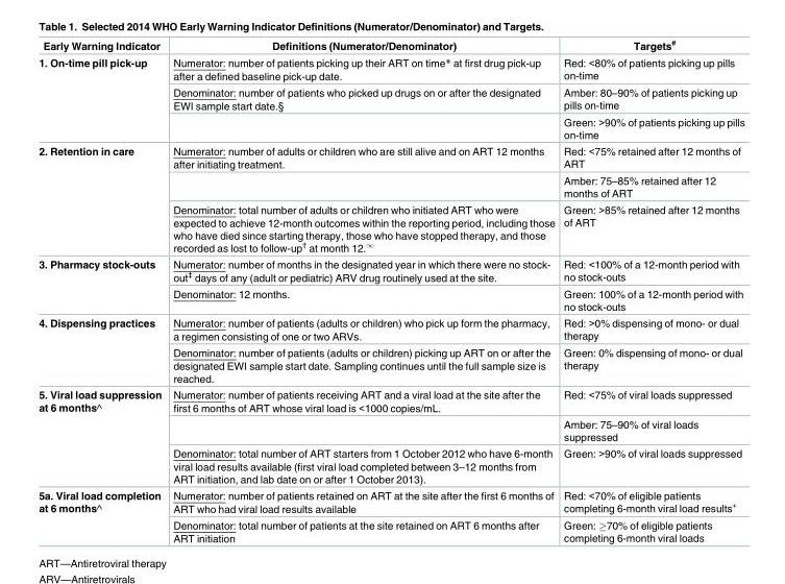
<table><thead><tr><td>Early Warning Indicator</td><td>Definitions (Numerator/Denominator)</td><td>Targets<sup>#</sup></td></tr></thead><tbody><tr><td rowspan="3">1. On-time pill pick-up</td><td>Numerator: number of patients picking up their ART on time* at first drug pick-up after a defined baseline pick-up date.</td><td>Red: &lt;80% of patients picking up pills on-time</td></tr><tr><td>Denominator: number of patients who picked up drugs on or after the designated EWI sample start date.§</td><td>Amber: 80–90% of patients picking up pills on-time</td></tr><tr><td></td><td>Green: &gt;90% of patients picking up pills on-time</td></tr><tr><td rowspan="3">2. Retention in care</td><td>Numerator: number of adults or children who are still alive and on ART 12 months after initiating treatment.</td><td>Red: &lt;75% retained after 12 months of ART</td></tr><tr><td></td><td>Amber: 75–85% retained after 12 months of ART</td></tr><tr><td>Denominator: total number of adults or children who initiated ART who were expected to achieve 12-month outcomes within the reporting period, including those who have died since starting therapy, those who have stopped therapy, and those recorded as lost to follow-up<sup>†</sup> at month 12.<sup>∞</sup></td><td>Green: &gt;85% retained after 12 months of ART</td></tr><tr><td rowspan="2">3. Pharmacy stock-outs</td><td>Numerator: number of months in the designated year in which there were no stock- out<sup>‡</sup> days of any (adult or pediatric) ARV drug routinely used at the site.</td><td>Red: &lt;100% of a 12-month period with no stock-outs</td></tr><tr><td>Denominator: 12 months.</td><td>Green: 100% of a 12-month period with no stock-outs</td></tr><tr><td rowspan="2">4. Dispensing practices</td><td>Numerator: number of patients (adults or children) who pick up form the pharmacy, a regimen consisting of one or two ARVs.</td><td>Red: &gt;0% dispensing of mono- or dual therapy</td></tr><tr><td>Denominator: number of patients (adults or children) picking up ART on or after the designated EWI sample start date. Sampling continues until the full sample size is reached.</td><td>Green: 0% dispensing of mono- or dual therapy</td></tr><tr><td rowspan="3">5. Viral load suppression at 6 months^</td><td>Numerator: number of patients receiving ART and a viral load at the site after the first 6 months of ART whose viral load is &lt;1000 copies/mL.</td><td>Red: &lt;75% of viral loads suppressed</td></tr><tr><td></td><td>Amber: 75–90% of viral loads suppressed</td></tr><tr><td>Denominator: total number of ART starters from 1 October 2012 who have 6-month viral load results available (first viral load completed between 3–12 months from ART initiation, and lab date on or after 1 October 2013).</td><td>Green: &gt;90% of viral loads suppressed</td></tr><tr><td rowspan="2">5a. Viral load completion at 6 months^</td><td>Numerator: number of patients retained on ART at the site after the first 6 months of ART who had viral load results available</td><td>Red: &lt;70% of eligible patients completing 6-month viral load results<sup>+</sup></td></tr><tr><td>Denominator: total number of patients at the site retained on ART 6 months after ART initiation</td><td>Green: ≥70% of eligible patients completing 6-month viral loads</td></tr></tbody></table>